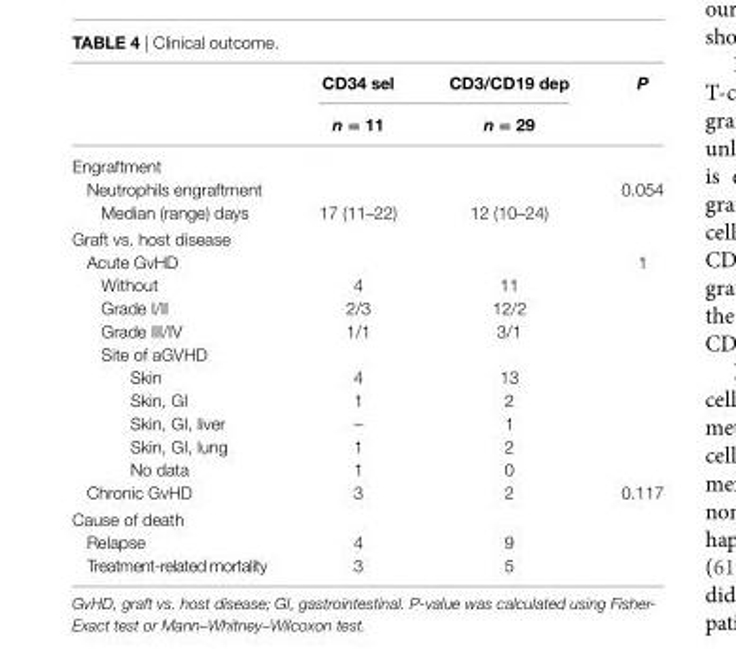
<table><thead><tr><td rowspan="2"></td><td rowspan="2">cD34 sel n = 11</td><td rowspan="2">cD3/cD19 dep n = 29</td><td rowspan="2">P</td></tr><tr></tr></thead><tbody><tr><td colspan="4">Engraftment</td></tr><tr><td>Neutrophils engraftment</td><td></td><td></td><td>0.054</td></tr><tr><td>Median (range) days</td><td>17 (11–22)</td><td>12 (10–24)</td><td></td></tr><tr><td colspan="4">Graft vs. host disease</td></tr><tr><td>Acute GvHD</td><td></td><td></td><td>1</td></tr><tr><td>Without</td><td>4</td><td>11</td><td></td></tr><tr><td>Grade I/II</td><td>2/3</td><td>12/2</td><td></td></tr><tr><td>Grade III/IV</td><td>1/1</td><td>3/1</td><td></td></tr><tr><td colspan="4">Site of aGVHD</td></tr><tr><td>Skin</td><td>4</td><td>13</td><td></td></tr><tr><td>Skin, GI</td><td>1</td><td>2</td><td></td></tr><tr><td>Skin, GI, liver</td><td>–</td><td>1</td><td></td></tr><tr><td>Skin, GI, lung</td><td>1</td><td>2</td><td></td></tr><tr><td>No data</td><td>1</td><td>0</td><td></td></tr><tr><td>Chronic GvHD</td><td>3</td><td>2</td><td>0.117</td></tr><tr><td colspan="4">Cause of death</td></tr><tr><td>Relapse</td><td>4</td><td>9</td><td></td></tr><tr><td>Treatment-related mortality</td><td>3</td><td>5</td><td></td></tr></tbody></table>